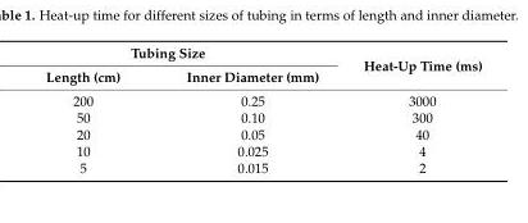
<table><thead><tr><td colspan="2">Tubing Size</td><td rowspan="2">Heat-Up Time (ms)</td></tr><tr><td>Length (cm)</td><td>Inner Diameter (mm)</td></tr></thead><tbody><tr><td>200</td><td>0.25</td><td>3000</td></tr><tr><td>50</td><td>0.10</td><td>300</td></tr><tr><td>20</td><td>0.05</td><td>40</td></tr><tr><td>10</td><td>0.025</td><td>4</td></tr><tr><td>5</td><td>0.015</td><td>2</td></tr></tbody></table>